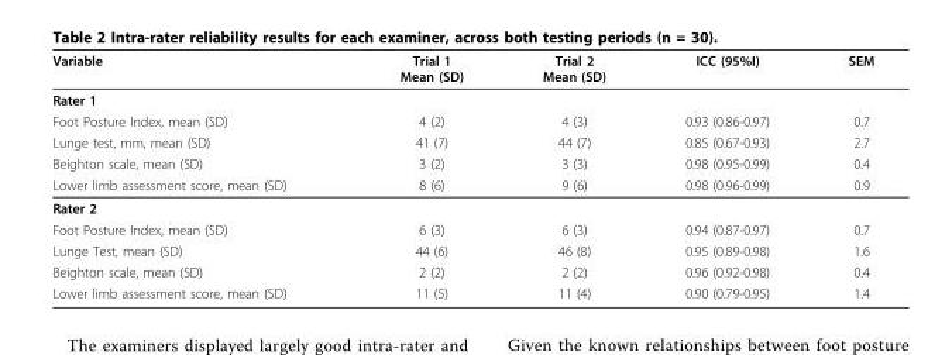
<table><thead><tr><td>Variable</td><td>Trial 1 Mean (SD)</td><td>Trial 2 Mean (SD)</td><td>ICC (95%I)</td><td>SEM</td></tr></thead><tbody><tr><td colspan="5">Rater 1</td></tr><tr><td>Foot Posture Index, mean (SD)</td><td>4 (2)</td><td>4 (3)</td><td>0.93 (0.86-0.97)</td><td>0.7</td></tr><tr><td>Lunge test, mm, mean (SD)</td><td>41 (7)</td><td>44 (7)</td><td>0.85 (0.67-0.93)</td><td>2.7</td></tr><tr><td>Beighton scale, mean (SD)</td><td>3 (2)</td><td>3 (3)</td><td>0.98 (0.95-0.99)</td><td>0.4</td></tr><tr><td>Lower limb assessment score, mean (SD)</td><td>8 (6)</td><td>9 (6)</td><td>0.98 (0.96-0.99)</td><td>0.9</td></tr><tr><td colspan="5">Rater 2</td></tr><tr><td>Foot Posture Index, mean (SD)</td><td>6 (3)</td><td>6 (3)</td><td>0.94 (0.87-0.97)</td><td>0.7</td></tr><tr><td>Lunge Test, mean (SD)</td><td>44 (6)</td><td>46 (8)</td><td>0.95 (0.89-0.98)</td><td>1.6</td></tr><tr><td>Beighton scale, mean (SD)</td><td>2 (2)</td><td>2 (2)</td><td>0.96 (0.92-0.98)</td><td>0.4</td></tr><tr><td>Lower limb assessment score, mean (SD)</td><td>11 (5)</td><td>11 (4)</td><td>0.90 (0.79-0.95)</td><td>1.4</td></tr></tbody></table>